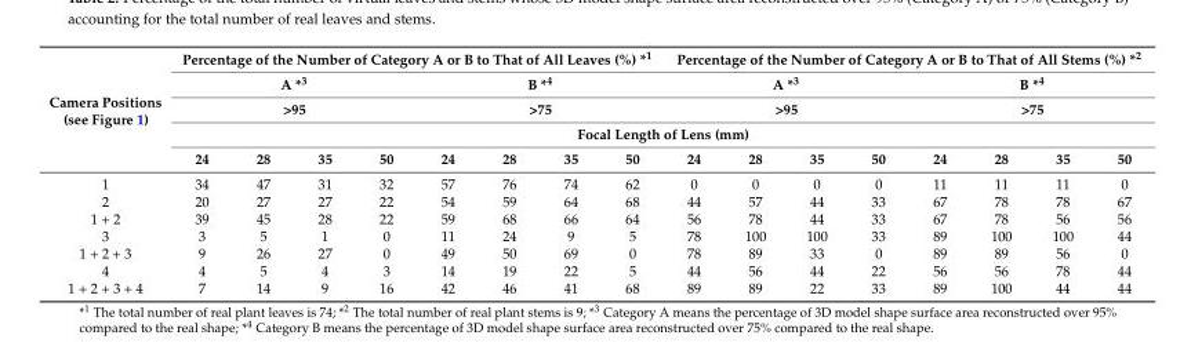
<table><thead><tr><td rowspan="5">Camera Positions (see Figure 1)</td><td colspan="8">Percentage of the Number of Category A or B to That of All Leaves (%) *<sup>1</sup></td><td colspan="8">Percentage of the Number of Category A or B to That of All Stems (%) *<sup>2</sup></td></tr><tr><td rowspan="2" colspan="4">A *<sup>3</sup> &gt;95</td><td rowspan="2" colspan="4">B *<sup>4</sup> &gt;75</td><td rowspan="2" colspan="4">A *<sup>3</sup> &gt;95</td><td rowspan="2" colspan="4">B *<sup>4</sup> &gt;75</td></tr><tr></tr><tr><td colspan="16">Focal Length of Lens (mm)</td></tr><tr><td>24</td><td>28</td><td>35</td><td>50</td><td>24</td><td>28</td><td>35</td><td>50</td><td>24</td><td>28</td><td>35</td><td>50</td><td>24</td><td>28</td><td>35</td><td>50</td></tr></thead><tbody><tr><td>1</td><td>34</td><td>47</td><td>31</td><td>32</td><td>57</td><td>76</td><td>74</td><td>62</td><td>0</td><td>0</td><td>0</td><td>0</td><td>11</td><td>11</td><td>11</td><td>0</td></tr><tr><td>2</td><td>20</td><td>27</td><td>27</td><td>22</td><td>54</td><td>59</td><td>64</td><td>68</td><td>44</td><td>57</td><td>44</td><td>33</td><td>67</td><td>78</td><td>78</td><td>67</td></tr><tr><td>1 + 2</td><td>39</td><td>45</td><td>28</td><td>22</td><td>59</td><td>68</td><td>66</td><td>64</td><td>56</td><td>78</td><td>44</td><td>33</td><td>67</td><td>78</td><td>56</td><td>56</td></tr><tr><td>3</td><td>3</td><td>5</td><td>1</td><td>0</td><td>11</td><td>24</td><td>9</td><td>5</td><td>78</td><td>100</td><td>100</td><td>33</td><td>89</td><td>100</td><td>100</td><td>44</td></tr><tr><td>1 + 2 + 3</td><td>9</td><td>26</td><td>27</td><td>0</td><td>49</td><td>50</td><td>69</td><td>0</td><td>78</td><td>89</td><td>33</td><td>0</td><td>89</td><td>89</td><td>56</td><td>0</td></tr><tr><td>4</td><td>4</td><td>5</td><td>4</td><td>3</td><td>14</td><td>19</td><td>22</td><td>5</td><td>44</td><td>56</td><td>44</td><td>22</td><td>56</td><td>56</td><td>78</td><td>44</td></tr><tr><td>1 + 2 + 3 + 4</td><td>7</td><td>14</td><td>9</td><td>16</td><td>42</td><td>46</td><td>41</td><td>68</td><td>89</td><td>89</td><td>22</td><td>33</td><td>89</td><td>100</td><td>44</td><td>44</td></tr></tbody></table>